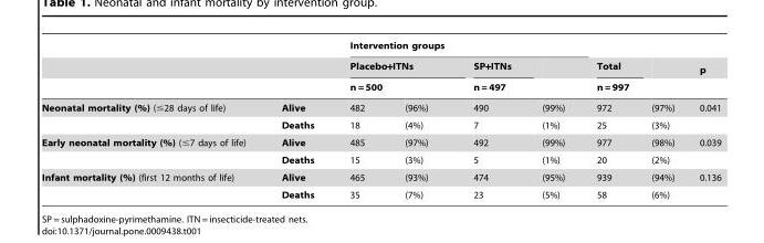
<table><thead><tr><td rowspan="3"></td><td rowspan="3"></td><td colspan="4">Intervention groups</td><td rowspan="3">Total n = 997</td><td rowspan="3"></td><td rowspan="3">p</td></tr><tr><td colspan="2">Placebo+ITNs</td><td rowspan="2">SP+ITNs n = 497</td><td rowspan="2"></td></tr><tr><td>n = 500</td><td></td></tr></thead><tbody><tr><td rowspan="2">Neonatal mortality (%) (≤28 days of life)</td><td>Alive</td><td>482</td><td>(96%)</td><td>490</td><td>(99%)</td><td>972</td><td>(97%)</td><td>0.041</td></tr><tr><td>Deaths</td><td>18</td><td>(4%)</td><td>7</td><td>(1%)</td><td>25</td><td>(3%)</td><td></td></tr><tr><td rowspan="2">Early neonatal mortality (%) (≤7 days of life)</td><td>Alive</td><td>485</td><td>(97%)</td><td>492</td><td>(99%)</td><td>977</td><td>(98%)</td><td>0.039</td></tr><tr><td>Deaths</td><td>15</td><td>(3%)</td><td>5</td><td>(1%)</td><td>20</td><td>(2%)</td><td></td></tr><tr><td rowspan="2">Infant mortality (%) (first 12 months of life)</td><td>Alive</td><td>465</td><td>(93%)</td><td>474</td><td>(95%)</td><td>939</td><td>(94%)</td><td>0.136</td></tr><tr><td>Deaths</td><td>35</td><td>(7%)</td><td>23</td><td>(5%)</td><td>58</td><td>(6%)</td><td></td></tr></tbody></table>